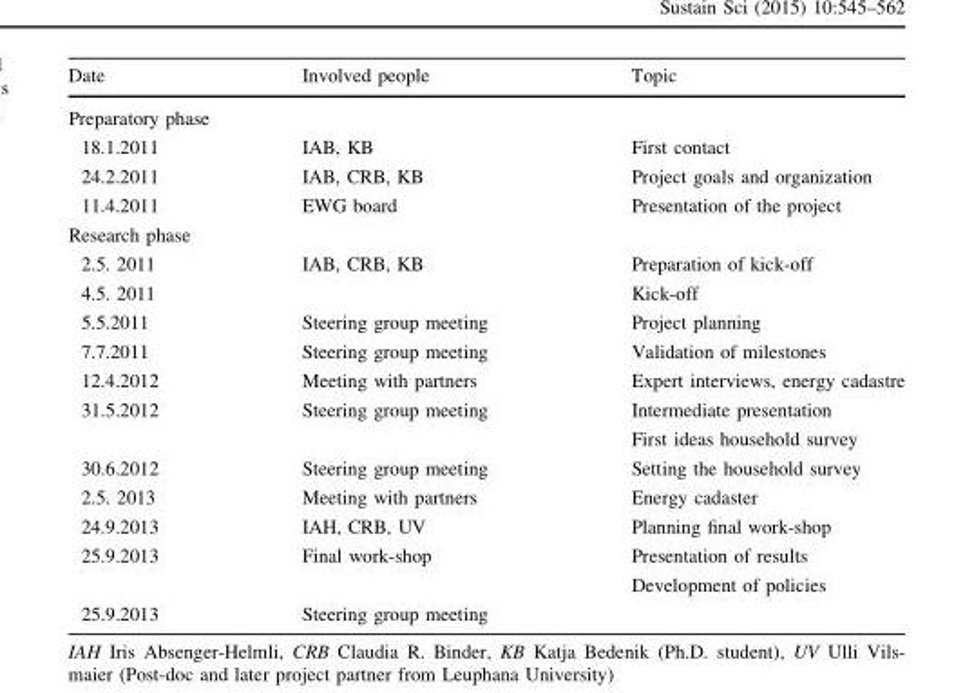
<table><thead><tr><td>Date</td><td>Involved people</td><td>Topic</td></tr></thead><tbody><tr><td colspan="3">Preparatory phase</td></tr><tr><td>18.1.2011</td><td>IAB, KB</td><td>First contact</td></tr><tr><td>24.2.2011</td><td>IAB, CRB, KB</td><td>Project goals and organization</td></tr><tr><td>11.4.2011</td><td>EWG board</td><td>Presentation of the project</td></tr><tr><td colspan="3">Research phase</td></tr><tr><td>2.5. 2011</td><td>IAB, CRB, KB</td><td>Preparation of kick-off</td></tr><tr><td>4.5. 2011</td><td></td><td>Kick-off</td></tr><tr><td>5.5.2011</td><td>Steering group meeting</td><td>Project planning</td></tr><tr><td>7.7.2011</td><td>Steering group meeting</td><td>Validation of milestones</td></tr><tr><td>12.4.2012</td><td>Meeting with partners</td><td>Expert interviews, energy cadastre</td></tr><tr><td>31.5.2012</td><td>Steering group meeting</td><td>Intermediate presentation First ideas household survey</td></tr><tr><td>30.6.2012</td><td>Steering group meeting</td><td>Setting the household survey</td></tr><tr><td>2.5. 2013</td><td>Meeting with partners</td><td>Energy cadaster</td></tr><tr><td>24.9.2013</td><td>IAH, CRB, UV</td><td>Planning final work-shop</td></tr><tr><td>25.9.2013</td><td>Final work-shop</td><td>Presentation of results Development of policies</td></tr><tr><td>25.9.2013</td><td>Steering group meeting</td><td></td></tr></tbody></table>